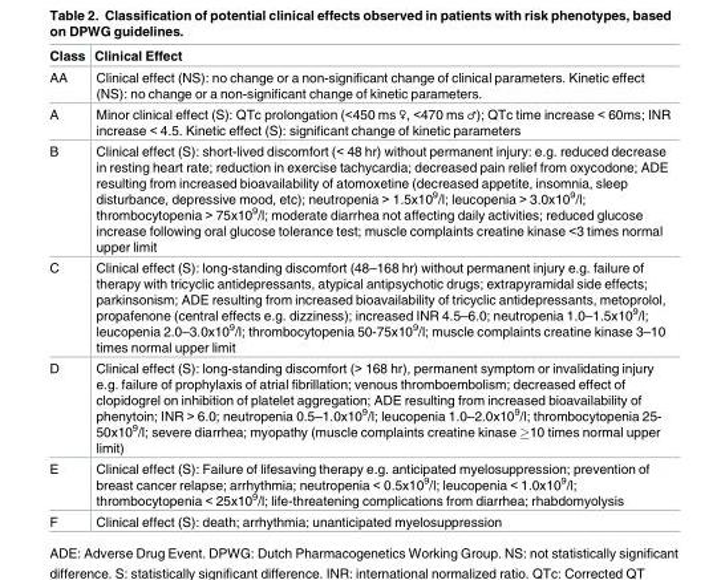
<table><thead><tr><td>Class</td><td>Clinical Effect</td></tr></thead><tbody><tr><td>AA</td><td>Clinical effect (NS): no change or a non-significant change of clinical parameters. Kinetic effect (NS): no change or a non-significant change of kinetic parameters.</td></tr><tr><td>A</td><td>Minor clinical effect (S): QTc prolongation (&lt;450 ms ♀, &lt;470 ms ♂); QTc time increase &lt; 60ms; INR increase &lt; 4.5. Kinetic effect (S): significant change of kinetic parameters</td></tr><tr><td>B</td><td>Clinical effect (S): short-lived discomfort (&lt; 48 hr) without permanent injury: e.g. reduced decrease in resting heart rate; reduction in exercise tachycardia; decreased pain relief from oxycodone; ADE resulting from increased bioavailability of atomoxetine (decreased appetite, insomnia, sleep disturbance, depressive mood, etc); neutropenia &gt; 1.5x10<sup>9</sup>/l; leucopenia &gt; 3.0x10<sup>9</sup>/l; thrombocytopenia &gt; 75x10<sup>9</sup>/l; moderate diarrhea not affecting daily activities; reduced glucose increase following oral glucose tolerance test; muscle complaints creatine kinase &lt;3 times normal upper limit</td></tr><tr><td>C</td><td>Clinical effect (S): long-standing discomfort (48–168 hr) without permanent injury e.g. failure of therapy with tricyclic antidepressants, atypical antipsychotic drugs; extrapyramidal side effects; parkinsonism; ADE resulting from increased bioavailability of tricyclic antidepressants, metoprolol, propafenone (central effects e.g. dizziness); increased INR 4.5–6.0; neutropenia 1.0–1.5x10<sup>9</sup>/l; leucopenia 2.0–3.0x10<sup>9</sup>/l; thrombocytopenia 50-75x10<sup>9</sup>/l; muscle complaints creatine kinase 3–10 times normal upper limit</td></tr><tr><td>D</td><td>Clinical effect (S): long-standing discomfort (&gt; 168 hr), permanent symptom or invalidating injury e.g. failure of prophylaxis of atrial fibrillation; venous thromboembolism; decreased effect of clopidogrel on inhibition of platelet aggregation; ADE resulting from increased bioavailability of phenytoin; INR &gt; 6.0; neutropenia 0.5–1.0x10<sup>9</sup>/l; leucopenia 1.0–2.0x10<sup>9</sup>/l; thrombocytopenia 25- 50x10<sup>9</sup>/l; severe diarrhea; myopathy (muscle complaints creatine kinase ≥10 times normal upper limit)</td></tr><tr><td>E</td><td>Clinical effect (S): Failure of lifesaving therapy e.g. anticipated myelosuppression; prevention of breast cancer relapse; arrhythmia; neutropenia &lt; 0.5x10<sup>9</sup>/l; leucopenia &lt; 1.0x10<sup>9</sup>/l; thrombocytopenia &lt; 25x10<sup>9</sup>/l; life-threatening complications from diarrhea; rhabdomyolysis</td></tr><tr><td>F</td><td>Clinical effect (S): death; arrhythmia; unanticipated myelosuppression</td></tr></tbody></table>